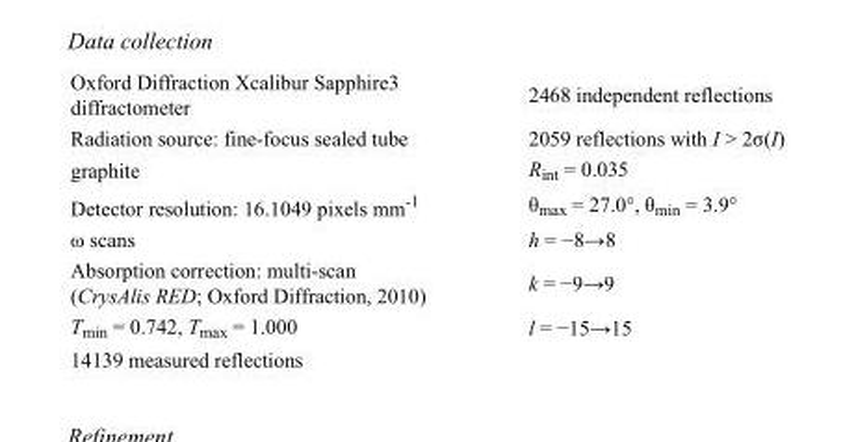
<table><tbody><tr><td>Oxford Diffraction Xcalibur Sapphire3 diffractometer</td><td>2468 independent reflections</td></tr><tr><td>Radiation source: fine-focus sealed tube</td><td>2059 reflections with I &gt; 2σ(I)</td></tr><tr><td>graphite</td><td>R<sub>int</sub> = 0.035</td></tr><tr><td>Detector resolution: 16.1049 pixels mm<sup>-1</sup></td><td>θ<sub>max</sub> = 27.0°, θ<sub>min</sub> = 3.9°</td></tr><tr><td>ω scans</td><td>h = −8→8</td></tr><tr><td>Absorption correction: multi-scan (CrysAlis RED; Oxford Diffraction, 2010)</td><td>k = −9→9</td></tr><tr><td>T<sub>min</sub> = 0.742, T<sub>max</sub> = 1.000</td><td>l = −15→15</td></tr><tr><td>14139 measured reflections</td><td></td></tr></tbody></table>